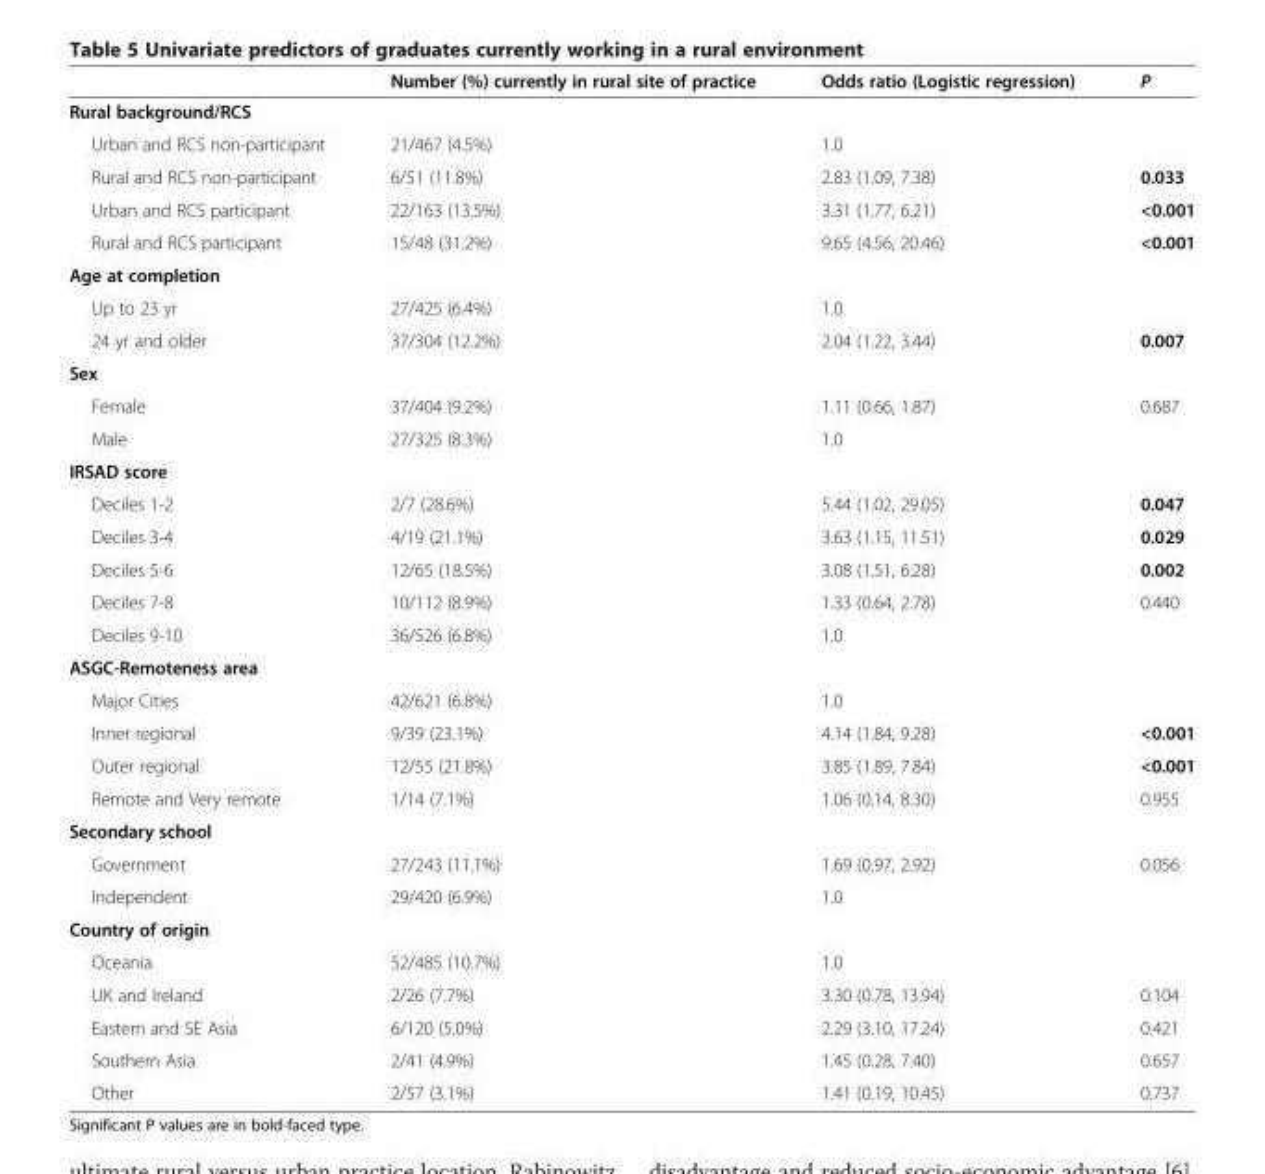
<table><thead><tr><td></td><td>Number (%) currently in rural site of practice</td><td>Odds ratio (Logistic regression)</td><td>P</td></tr></thead><tbody><tr><td colspan="4">Rural background/RCS</td></tr><tr><td>Urban and RCS non-participant</td><td>21/467 (4.5%)</td><td>1.0</td><td></td></tr><tr><td>Rural and RCS non-participant</td><td>6/51 (11.8%)</td><td>2.83 (1.09, 7.38)</td><td>0.033</td></tr><tr><td>Urban and RCS participant</td><td>22/163 (13.5%)</td><td>3.31 (1.77, 6.21)</td><td>&lt;0.001</td></tr><tr><td>Rural and RCS participant</td><td>15/48 (31.2%)</td><td>9.65 (4.56, 20.46)</td><td>&lt;0.001</td></tr><tr><td colspan="4">Age at completion</td></tr><tr><td>Up to 23 yr</td><td>27/425 (6.4%)</td><td>1.0</td><td></td></tr><tr><td>24 yr and older</td><td>37/304 (12.2%)</td><td>2.04 (1.22, 3.44)</td><td>0.007</td></tr><tr><td colspan="4">Sex</td></tr><tr><td>Female</td><td>37/404 (9.2%)</td><td>1.11 (0.66, 1.87)</td><td>0.687</td></tr><tr><td>Male</td><td>27/325 (8.3%)</td><td>1.0</td><td></td></tr><tr><td colspan="4">IRSAD score</td></tr><tr><td>Deciles 1-2</td><td>2/7 (28.6%)</td><td>5.44 (1.02, 29.05)</td><td>0.047</td></tr><tr><td>Deciles 3-4</td><td>4/19 (21.1%)</td><td>3.63 (1.15, 11.51)</td><td>0.029</td></tr><tr><td>Deciles 5-6</td><td>12/65 (18.5%)</td><td>3.08 (1.51, 6.28)</td><td>0.002</td></tr><tr><td>Deciles 7-8</td><td>10/112 (8.9%)</td><td>1.33 (0.64, 2.78)</td><td>0.440</td></tr><tr><td>Deciles 9-10</td><td>36/526 (6.8%)</td><td>1.0</td><td></td></tr><tr><td colspan="4">ASGC-Remoteness area</td></tr><tr><td>Major Cities</td><td>42/621 (6.8%)</td><td>1.0</td><td></td></tr><tr><td>Inner regional</td><td>9/39 (23.1%)</td><td>4.14 (1.84, 9.28)</td><td>&lt;0.001</td></tr><tr><td>Outer regional</td><td>12/55 (21.8%)</td><td>3.85 (1.89, 7.84)</td><td>&lt;0.001</td></tr><tr><td>Remote and Very remote</td><td>1/14 (7.1%)</td><td>1.06 (0.14, 8.30)</td><td>0.955</td></tr><tr><td colspan="4">Secondary school</td></tr><tr><td>Government</td><td>27/243 (11.1%)</td><td>1.69 (0.97, 2.92)</td><td>0.056</td></tr><tr><td>Independent</td><td>29/420 (6.9%)</td><td>1.0</td><td></td></tr><tr><td colspan="4">Country of origin</td></tr><tr><td>Oceania</td><td>52/485 (10.7%)</td><td>1.0</td><td></td></tr><tr><td>UK and Ireland</td><td>2/26 (7.7%)</td><td>3.30 (0.78, 13.94)</td><td>0.104</td></tr><tr><td>Eastern and SE Asia</td><td>6/120 (5.0%)</td><td>2.29 (3.10, 17.24)</td><td>0.421</td></tr><tr><td>Southern Asia</td><td>2/41 (4.9%)</td><td>1.45 (0.28, 7.40)</td><td>0.657</td></tr><tr><td>Other</td><td>2/57 (3.1%)</td><td>1.41 (0.19, 10.45)</td><td>0.737</td></tr></tbody></table>